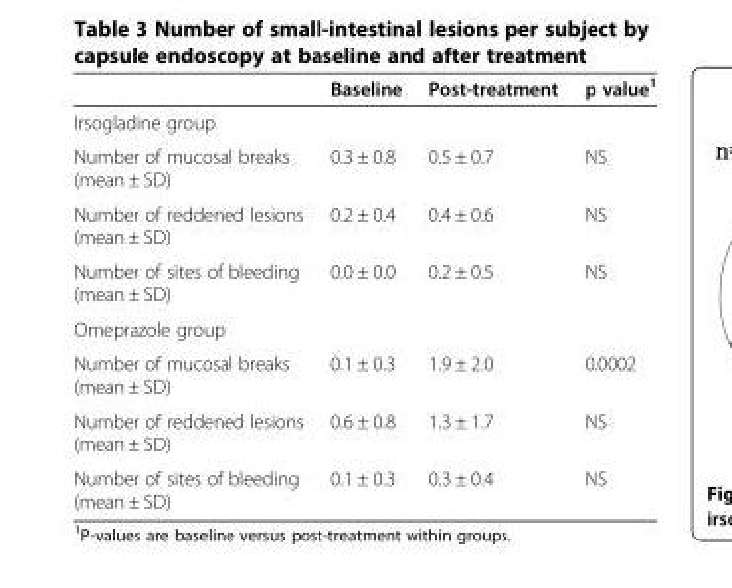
<table><thead><tr><td></td><td>Baseline</td><td>Post-treatment</td><td>p value<sup>1</sup></td></tr></thead><tbody><tr><td colspan="4">Irsogladine group</td></tr><tr><td>Number of mucosal breaks (mean ± SD)</td><td>0.3 ± 0.8</td><td>0.5 ± 0.7</td><td>NS</td></tr><tr><td>Number of reddened lesions (mean ± SD)</td><td>0.2 ± 0.4</td><td>0.4 ± 0.6</td><td>NS</td></tr><tr><td>Number of sites of bleeding (mean ± SD)</td><td>0.0 ± 0.0</td><td>0.2 ± 0.5</td><td>NS</td></tr><tr><td colspan="4">Omeprazole group</td></tr><tr><td>Number of mucosal breaks (mean ± SD)</td><td>0.1 ± 0.3</td><td>1.9 ± 2.0</td><td>0.0002</td></tr><tr><td>Number of reddened lesions (mean ± SD)</td><td>0.6 ± 0.8</td><td>1.3 ± 1.7</td><td>NS</td></tr><tr><td>Number of sites of bleeding (mean ± SD)</td><td>0.1 ± 0.3</td><td>0.3 ± 0.4</td><td>NS</td></tr></tbody></table>